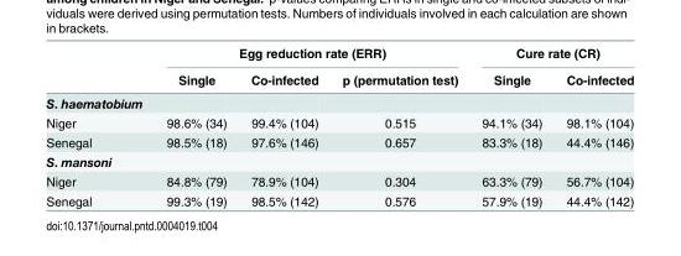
<table><thead><tr><td rowspan="2"></td><td colspan="3">Egg reduction rate (ERR)</td><td colspan="2">Cure rate (CR)</td></tr><tr><td>Single</td><td>Co-infected</td><td>p (permutation test)</td><td>Single</td><td>Co-infected</td></tr></thead><tbody><tr><td colspan="6">S. haematobium</td></tr><tr><td>Niger</td><td>98.6% (34)</td><td>99.4% (104)</td><td>0.515</td><td>94.1% (34)</td><td>98.1% (104)</td></tr><tr><td>Senegal</td><td>98.5% (18)</td><td>97.6% (146)</td><td>0.657</td><td>83.3% (18)</td><td>44.4% (146)</td></tr><tr><td colspan="6">S. mansoni</td></tr><tr><td>Niger</td><td>84.8% (79)</td><td>78.9% (104)</td><td>0.304</td><td>63.3% (79)</td><td>56.7% (104)</td></tr><tr><td>Senegal</td><td>99.3% (19)</td><td>98.5% (142)</td><td>0.576</td><td>57.9% (19)</td><td>44.4% (142)</td></tr></tbody></table>